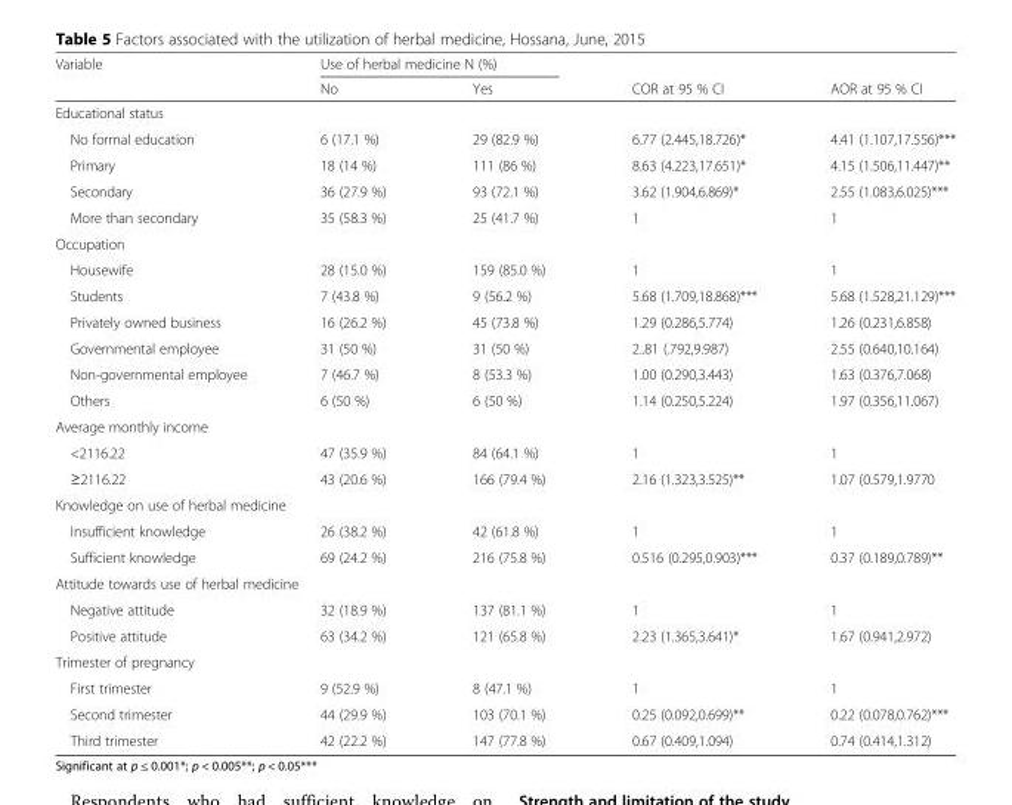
<table><thead><tr><td rowspan="2">Variable</td><td colspan="2">Use of herbal medicine N (%)</td><td rowspan="2">COR at 95 % CI</td><td rowspan="2">AOR at 95 % CI</td></tr><tr><td>No</td><td>Yes</td></tr></thead><tbody><tr><td colspan="5">Educational status</td></tr><tr><td>No formal education</td><td>6 (17.1 %)</td><td>29 (82.9 %)</td><td>6.77 (2.445,18.726)*</td><td>4.41 (1.107,17.556)***</td></tr><tr><td>Primary</td><td>18 (14 %)</td><td>111 (86 %)</td><td>8.63 (4.223,17.651)*</td><td>4.15 (1.506,11.447)**</td></tr><tr><td>Secondary</td><td>36 (27.9 %)</td><td>93 (72.1 %)</td><td>3.62 (1.904,6.869)*</td><td>2.55 (1.083,6.025)***</td></tr><tr><td>More than secondary</td><td>35 (58.3 %)</td><td>25 (41.7 %)</td><td>1</td><td>1</td></tr><tr><td colspan="5">Occupation</td></tr><tr><td>Housewife</td><td>28 (15.0 %)</td><td>159 (85.0 %)</td><td>1</td><td>1</td></tr><tr><td>Students</td><td>7 (43.8 %)</td><td>9 (56.2 %)</td><td>5.68 (1.709,18.868)***</td><td>5.68 (1.528,21.129)***</td></tr><tr><td>Privately owned business</td><td>16 (26.2 %)</td><td>45 (73.8 %)</td><td>1.29 (0.286,5.774)</td><td>1.26 (0.231,6.858)</td></tr><tr><td>Governmental employee</td><td>31 (50 %)</td><td>31 (50 %)</td><td>2..81 (.792,9.987)</td><td>2.55 (0.640,10.164)</td></tr><tr><td>Non-governmental employee</td><td>7 (46.7 %)</td><td>8 (53.3 %)</td><td>1.00 (0.290,3.443)</td><td>1.63 (0.376,7.068)</td></tr><tr><td>Others</td><td>6 (50 %)</td><td>6 (50 %)</td><td>1.14 (0.250,5.224)</td><td>1.97 (0.356,11.067)</td></tr><tr><td colspan="5">Average monthly income</td></tr><tr><td>&lt;2116.22</td><td>47 (35.9 %)</td><td>84 (64.1 %)</td><td>1</td><td>1</td></tr><tr><td>≥2116.22</td><td>43 (20.6 %)</td><td>166 (79.4 %)</td><td>2.16 (1.323,3.525)**</td><td>1.07 (0.579,1.9770</td></tr><tr><td colspan="5">Knowledge on use of herbal medicine</td></tr><tr><td>Insufficient knowledge</td><td>26 (38.2 %)</td><td>42 (61.8 %)</td><td>1</td><td>1</td></tr><tr><td>Sufficient knowledge</td><td>69 (24.2 %)</td><td>216 (75.8 %)</td><td>0.516 (0.295,0.903)***</td><td>0.37 (0.189,0.789)**</td></tr><tr><td colspan="5">Attitude towards use of herbal medicine</td></tr><tr><td>Negative attitude</td><td>32 (18.9 %)</td><td>137 (81.1 %)</td><td>1</td><td>1</td></tr><tr><td>Positive attitude</td><td>63 (34.2 %)</td><td>121 (65.8 %)</td><td>2.23 (1.365,3.641)*</td><td>1.67 (0.941,2.972)</td></tr><tr><td colspan="5">Trimester of pregnancy</td></tr><tr><td>First trimester</td><td>9 (52.9 %)</td><td>8 (47.1 %)</td><td>1</td><td>1</td></tr><tr><td>Second trimester</td><td>44 (29.9 %)</td><td>103 (70.1 %)</td><td>0.25 (0.092,0.699)**</td><td>0.22 (0.078,0.762)***</td></tr><tr><td>Third trimester</td><td>42 (22.2 %)</td><td>147 (77.8 %)</td><td>0.67 (0.409,1.094)</td><td>0.74 (0.414,1.312)</td></tr></tbody></table>